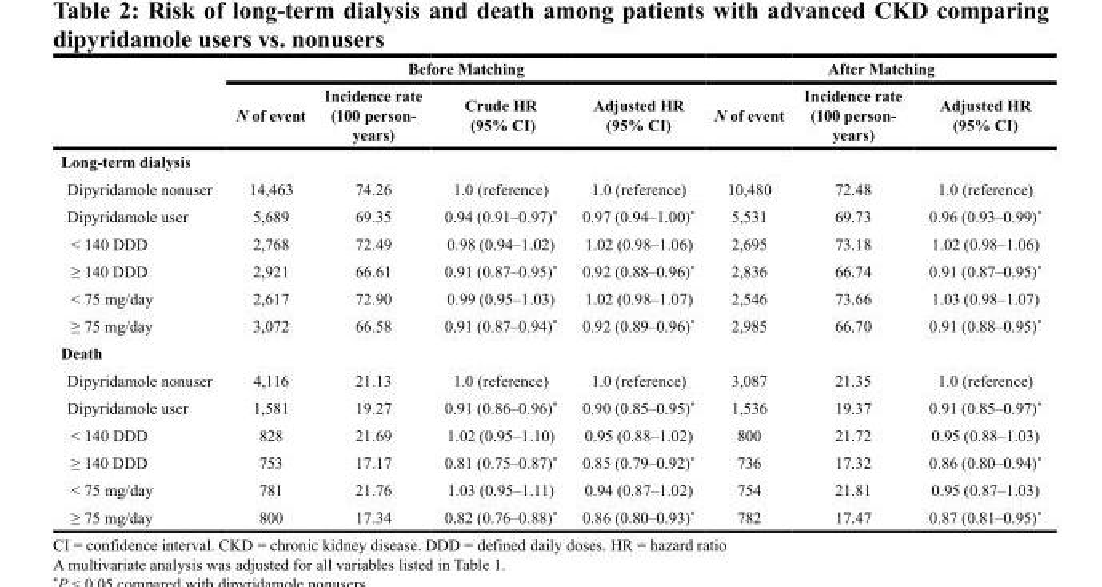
<table><thead><tr><td rowspan="2"></td><td colspan="4">Before Matching</td><td colspan="3">After Matching</td></tr><tr><td>N of event</td><td>Incidence rate (100 person- years)</td><td>Crude HR (95% CI)</td><td>Adjusted HR (95% CI)</td><td>N of event</td><td>Incidence rate (100 person- years)</td><td>Adjusted HR (95% CI)</td></tr></thead><tbody><tr><td colspan="8">Long-term dialysis</td></tr><tr><td>Dipyridamole nonuser</td><td>14,463</td><td>74.26</td><td>1.0 (reference)</td><td>1.0 (reference)</td><td>10,480</td><td>72.48</td><td>1.0 (reference)</td></tr><tr><td>Dipyridamole user</td><td>5,689</td><td>69.35</td><td>0.94 (0.91–0.97)*</td><td>0.97 (0.94–1.00)*</td><td>5,531</td><td>69.73</td><td>0.96 (0.93–0.99)*</td></tr><tr><td>&lt; 140 DDD</td><td>2,768</td><td>72.49</td><td>0.98 (0.94–1.02)</td><td>1.02 (0.98–1.06)</td><td>2,695</td><td>73.18</td><td>1.02 (0.98–1.06)</td></tr><tr><td>≥ 140 DDD</td><td>2,921</td><td>66.61</td><td>0.91 (0.87–0.95)*</td><td>0.92 (0.88–0.96)*</td><td>2,836</td><td>66.74</td><td>0.91 (0.87–0.95)*</td></tr><tr><td>&lt; 75 mg/day</td><td>2,617</td><td>72.90</td><td>0.99 (0.95–1.03)</td><td>1.02 (0.98–1.07)</td><td>2,546</td><td>73.66</td><td>1.03 (0.98–1.07)</td></tr><tr><td>≥ 75 mg/day</td><td>3,072</td><td>66.58</td><td>0.91 (0.87–0.94)*</td><td>0.92 (0.89–0.96)*</td><td>2,985</td><td>66.70</td><td>0.91 (0.88–0.95)*</td></tr><tr><td colspan="8">Death</td></tr><tr><td>Dipyridamole nonuser</td><td>4,116</td><td>21.13</td><td>1.0 (reference)</td><td>1.0 (reference)</td><td>3,087</td><td>21.35</td><td>1.0 (reference)</td></tr><tr><td>Dipyridamole user</td><td>1,581</td><td>19.27</td><td>0.91 (0.86–0.96)*</td><td>0.90 (0.85–0.95)*</td><td>1,536</td><td>19.37</td><td>0.91 (0.85–0.97)*</td></tr><tr><td>&lt; 140 DDD</td><td>828</td><td>21.69</td><td>1.02 (0.95–1.10)</td><td>0.95 (0.88–1.02)</td><td>800</td><td>21.72</td><td>0.95 (0.88–1.03)</td></tr><tr><td>≥ 140 DDD</td><td>753</td><td>17.17</td><td>0.81 (0.75–0.87)*</td><td>0.85 (0.79–0.92)*</td><td>736</td><td>17.32</td><td>0.86 (0.80–0.94)*</td></tr><tr><td>&lt; 75 mg/day</td><td>781</td><td>21.76</td><td>1.03 (0.95–1.11)</td><td>0.94 (0.87–1.02)</td><td>754</td><td>21.81</td><td>0.95 (0.87–1.03)</td></tr><tr><td>≥ 75 mg/day</td><td>800</td><td>17.34</td><td>0.82 (0.76–0.88)*</td><td>0.86 (0.80–0.93)*</td><td>782</td><td>17.47</td><td>0.87 (0.81–0.95)*</td></tr></tbody></table>